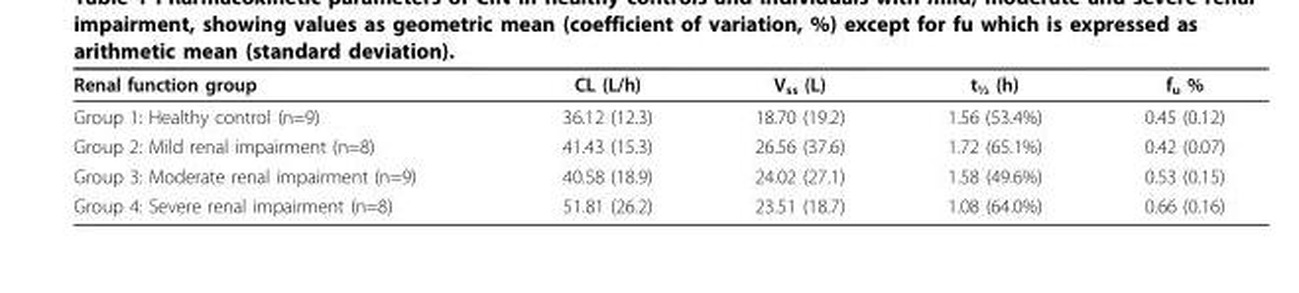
<table><thead><tr><td>Renal function group</td><td>CL (L/h)</td><td>V<sub>ss</sub> (L)</td><td>t<sub>½</sub> (h)</td><td>f<sub>u</sub> %</td></tr></thead><tbody><tr><td>Group 1: Healthy control (n=9)</td><td>36.12 (12.3)</td><td>18.70 (19.2)</td><td>1.56 (53.4%)</td><td>0.45 (0.12)</td></tr><tr><td>Group 2: Mild renal impairment (n=8)</td><td>41.43 (15.3)</td><td>26.56 (37.6)</td><td>1.72 (65.1%)</td><td>0.42 (0.07)</td></tr><tr><td>Group 3: Moderate renal impairment (n=9)</td><td>40.58 (18.9)</td><td>24.02 (27.1)</td><td>1.58 (49.6%)</td><td>0.53 (0.15)</td></tr><tr><td>Group 4: Severe renal impairment (n=8)</td><td>51.81 (26.2)</td><td>23.51 (18.7)</td><td>1.08 (64.0%)</td><td>0.66 (0.16)</td></tr></tbody></table>